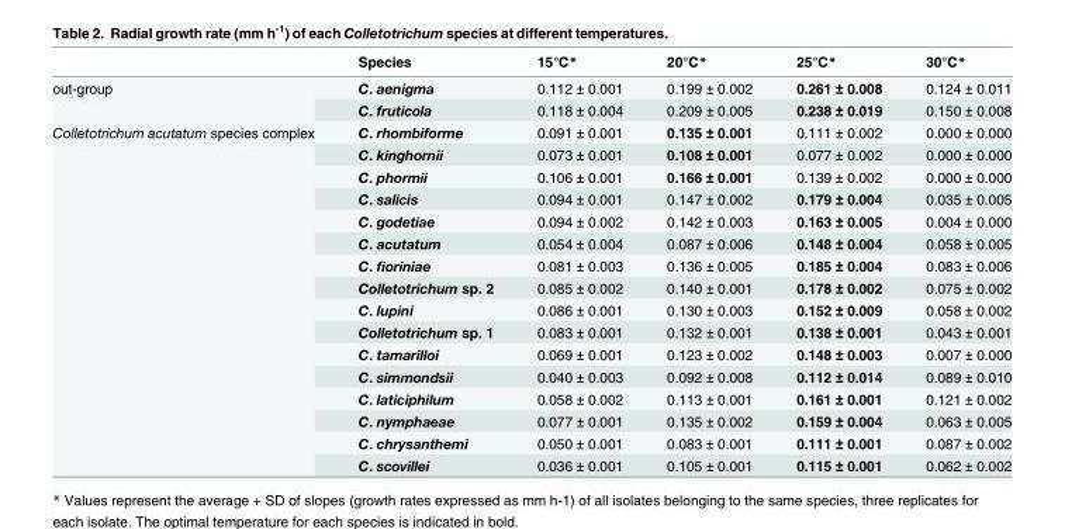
<table><thead><tr><td></td><td>Species</td><td>15°C*</td><td>20°C*</td><td>25°C*</td><td>30°C*</td></tr></thead><tbody><tr><td rowspan="2">out-group</td><td>C. aenigma</td><td>0.112 ± 0.001</td><td>0.199 ± 0.002</td><td>0.261 ± 0.008</td><td>0.124 ± 0.011</td></tr><tr><td>C. fruticola</td><td>0.118 ± 0.004</td><td>0.209 ± 0.005</td><td>0.238 ± 0.019</td><td>0.150 ± 0.008</td></tr><tr><td rowspan="16">Colletotrichum acutatum species complex</td><td>C. rhombiforme</td><td>0.091 ± 0.001</td><td>0.135 ± 0.001</td><td>0.111 ± 0.002</td><td>0.000 ± 0.000</td></tr><tr><td>C. kinghornii</td><td>0.073 ± 0.001</td><td>0.108 ± 0.001</td><td>0.077 ± 0.002</td><td>0.000 ± 0.000</td></tr><tr><td>C. phormii</td><td>0.106 ± 0.001</td><td>0.166 ± 0.001</td><td>0.139 ± 0.002</td><td>0.000 ± 0.000</td></tr><tr><td>C. salicis</td><td>0.094 ± 0.001</td><td>0.147 ± 0.002</td><td>0.179 ± 0.004</td><td>0.035 ± 0.005</td></tr><tr><td>C. godetiae</td><td>0.094 ± 0.002</td><td>0.142 ± 0.003</td><td>0.163 ± 0.005</td><td>0.004 ± 0.000</td></tr><tr><td>C. acutatum</td><td>0.054 ± 0.004</td><td>0.087 ± 0.006</td><td>0.148 ± 0.004</td><td>0.058 ± 0.005</td></tr><tr><td>C. fioriniae</td><td>0.081 ± 0.003</td><td>0.136 ± 0.005</td><td>0.185 ± 0.004</td><td>0.083 ± 0.006</td></tr><tr><td>Colletotrichum sp. 2</td><td>0.085 ± 0.002</td><td>0.140 ± 0.001</td><td>0.178 ± 0.002</td><td>0.075 ± 0.002</td></tr><tr><td>C. lupini</td><td>0.086 ± 0.001</td><td>0.130 ± 0.003</td><td>0.152 ± 0.009</td><td>0.058 ± 0.002</td></tr><tr><td>Colletotrichum sp. 1</td><td>0.083 ± 0.001</td><td>0.132 ± 0.001</td><td>0.138 ± 0.001</td><td>0.043 ± 0.001</td></tr><tr><td>C. tamarilloi</td><td>0.069 ± 0.001</td><td>0.123 ± 0.002</td><td>0.148 ± 0.003</td><td>0.007 ± 0.000</td></tr><tr><td>C. simmondsii</td><td>0.040 ± 0.003</td><td>0.092 ± 0.008</td><td>0.112 ± 0.014</td><td>0.089 ± 0.010</td></tr><tr><td>C. laticiphilum</td><td>0.058 ± 0.002</td><td>0.113 ± 0.001</td><td>0.161 ± 0.001</td><td>0.121 ± 0.002</td></tr><tr><td>C. nymphaeae</td><td>0.077 ± 0.001</td><td>0.135 ± 0.002</td><td>0.159 ± 0.004</td><td>0.063 ± 0.005</td></tr><tr><td>C. chrysanthemi</td><td>0.050 ± 0.001</td><td>0.083 ± 0.001</td><td>0.111 ± 0.001</td><td>0.087 ± 0.002</td></tr><tr><td>C. scovillei</td><td>0.036 ± 0.001</td><td>0.105 ± 0.001</td><td>0.115 ± 0.001</td><td>0.062 ± 0.002</td></tr></tbody></table>